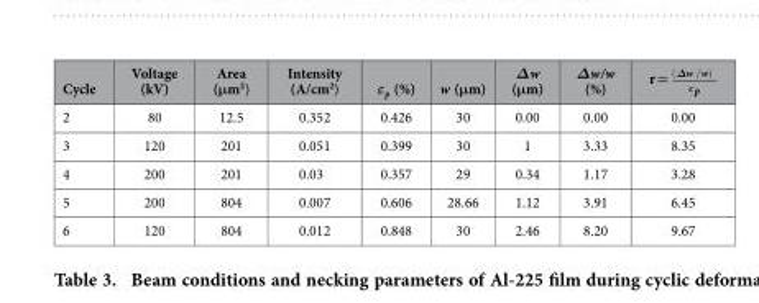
<table><thead><tr><td>Cycle</td><td>Voltage (kV)</td><td>Area (μm<sup>2</sup>)</td><td>Intensity (A/cm<sup>2</sup>)</td><td>ε<sub>p</sub> (%)</td><td>w (μm)</td><td>Δw (μm)</td><td>Δw/w (%)</td><td>r = ∆ ε ( w</td></tr></thead><tbody><tr><td>2</td><td>80</td><td>12.5</td><td>0.352</td><td>0.426</td><td>30</td><td>0.00</td><td>0.00</td><td>0.00</td></tr><tr><td>3</td><td>120</td><td>201</td><td>0.051</td><td>0.399</td><td>30</td><td>1</td><td>3.33</td><td>8.35</td></tr><tr><td>4</td><td>200</td><td>201</td><td>0.03</td><td>0.357</td><td>29</td><td>0.34</td><td>1.17</td><td>3.28</td></tr><tr><td>5</td><td>200</td><td>804</td><td>0.007</td><td>0.606</td><td>28.66</td><td>1.12</td><td>3.91</td><td>6.45</td></tr><tr><td>6</td><td>120</td><td>804</td><td>0.012</td><td>0.848</td><td>30</td><td>2.46</td><td>8.20</td><td>9.67</td></tr></tbody></table>